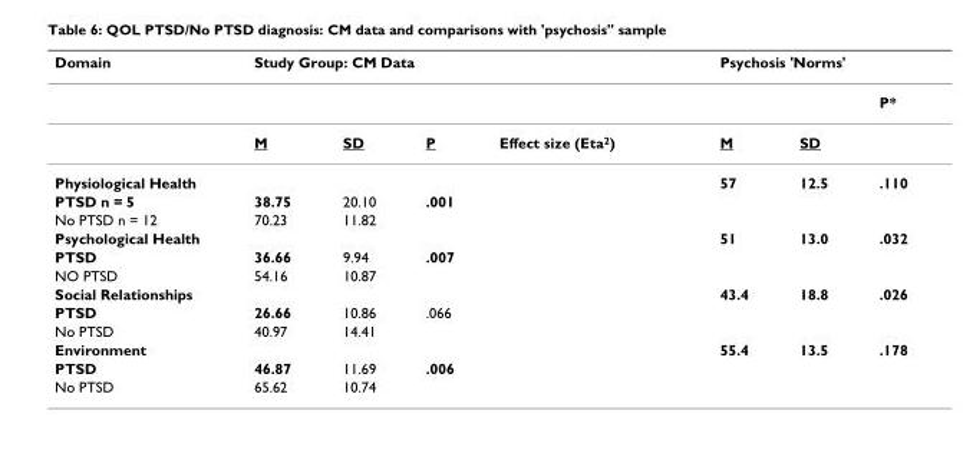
<table><thead><tr><td rowspan="2">Domain</td><td colspan="4">Study Group: CM Data</td><td colspan="3">Psychosis &#x27;Norms&#x27;</td></tr><tr><td></td><td></td><td></td><td></td><td></td><td></td><td>P*</td></tr></thead><tbody><tr><td></td><td>M</td><td>SD</td><td>P</td><td>Effect size (Eta<sup>2</sup>)</td><td>M</td><td>SD</td><td></td></tr><tr><td colspan="5">Physiological Health</td><td>57</td><td>12.5</td><td>.110</td></tr><tr><td>PTSD n = 5</td><td>38.75</td><td>20.10</td><td>.001</td><td></td><td></td><td></td><td></td></tr><tr><td>No PTSD n = 12</td><td>70.23</td><td>11.82</td><td></td><td></td><td></td><td></td><td></td></tr><tr><td colspan="5">Psychological Health</td><td>51</td><td>13.0</td><td>.032</td></tr><tr><td>PTSD</td><td>36.66</td><td>9.94</td><td>.007</td><td></td><td></td><td></td><td></td></tr><tr><td>NO PTSD</td><td>54.16</td><td>10.87</td><td></td><td></td><td></td><td></td><td></td></tr><tr><td colspan="5">Social Relationships</td><td>43.4</td><td>18.8</td><td>.026</td></tr><tr><td>PTSD</td><td>26.66</td><td>10.86</td><td>.066</td><td></td><td></td><td></td><td></td></tr><tr><td>No PTSD</td><td>40.97</td><td>14.41</td><td></td><td></td><td></td><td></td><td></td></tr><tr><td colspan="5">Environment</td><td>55.4</td><td>13.5</td><td>.178</td></tr><tr><td>PTSD</td><td>46.87</td><td>11.69</td><td>.006</td><td></td><td></td><td></td><td></td></tr><tr><td>No PTSD</td><td>65.62</td><td>10.74</td><td></td><td></td><td></td><td></td><td></td></tr></tbody></table>